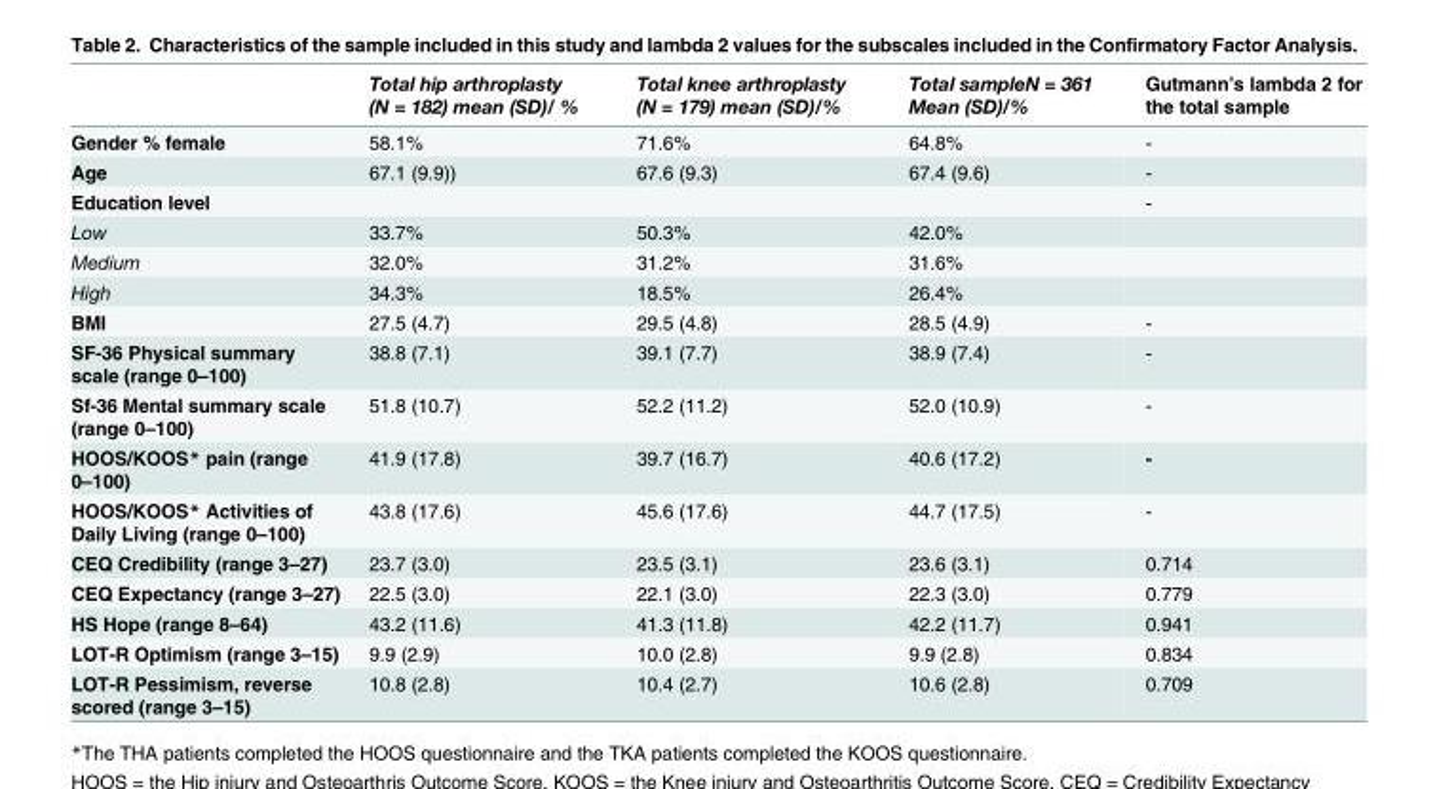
<table><thead><tr><td></td><td>Total hip arthroplasty (N = 182) mean (SD)/ %</td><td>Total knee arthroplasty (N = 179) mean (SD)/%</td><td>Total sampleN = 361 Mean (SD)/%</td><td>Gutmann’s lambda 2 for the total sample</td></tr></thead><tbody><tr><td>Gender % female</td><td>58.1%</td><td>71.6%</td><td>64.8%</td><td>-</td></tr><tr><td>Age</td><td>67.1 (9.9))</td><td>67.6 (9.3)</td><td>67.4 (9.6)</td><td>-</td></tr><tr><td>Education level</td><td></td><td></td><td></td><td>-</td></tr><tr><td>Low</td><td>33.7%</td><td>50.3%</td><td>42.0%</td><td></td></tr><tr><td>Medium</td><td>32.0%</td><td>31.2%</td><td>31.6%</td><td></td></tr><tr><td>High</td><td>34.3%</td><td>18.5%</td><td>26.4%</td><td></td></tr><tr><td>BMI</td><td>27.5 (4.7)</td><td>29.5 (4.8)</td><td>28.5 (4.9)</td><td>-</td></tr><tr><td>SF-36 Physical summary scale (range 0–100)</td><td>38.8 (7.1)</td><td>39.1 (7.7)</td><td>38.9 (7.4)</td><td>-</td></tr><tr><td>Sf-36 Mental summary scale (range 0–100)</td><td>51.8 (10.7)</td><td>52.2 (11.2)</td><td>52.0 (10.9)</td><td>-</td></tr><tr><td>HOOS/KOOS* pain (range 0–100)</td><td>41.9 (17.8)</td><td>39.7 (16.7)</td><td>40.6 (17.2)</td><td>-</td></tr><tr><td>HOOS/KOOS* Activities of Daily Living (range 0–100)</td><td>43.8 (17.6)</td><td>45.6 (17.6)</td><td>44.7 (17.5)</td><td>-</td></tr><tr><td>CEQ Credibility (range 3–27)</td><td>23.7 (3.0)</td><td>23.5 (3.1)</td><td>23.6 (3.1)</td><td>0.714</td></tr><tr><td>CEQ Expectancy (range 3–27)</td><td>22.5 (3.0)</td><td>22.1 (3.0)</td><td>22.3 (3.0)</td><td>0.779</td></tr><tr><td>HS Hope (range 8–64)</td><td>43.2 (11.6)</td><td>41.3 (11.8)</td><td>42.2 (11.7)</td><td>0.941</td></tr><tr><td>LOT-R Optimism (range 3–15)</td><td>9.9 (2.9)</td><td>10.0 (2.8)</td><td>9.9 (2.8)</td><td>0.834</td></tr><tr><td>LOT-R Pessimism, reverse scored (range 3–15)</td><td>10.8 (2.8)</td><td>10.4 (2.7)</td><td>10.6 (2.8)</td><td>0.709</td></tr></tbody></table>